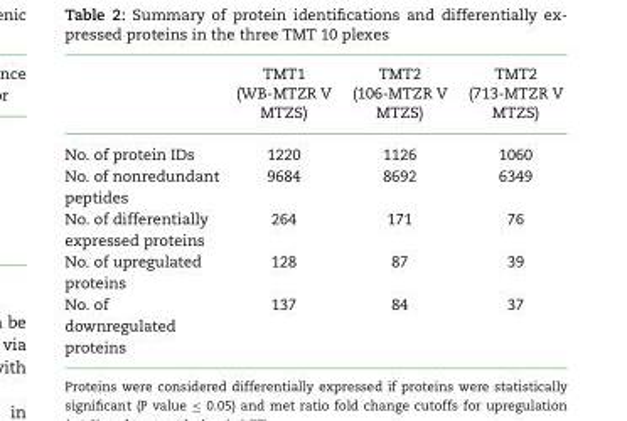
<table><thead><tr><td></td><td>TMT1 (WB-MTZR V MTZS)</td><td>TMT2 (106-MTZR V MTZS)</td><td>TMT2 (713-MTZR V MTZS)</td></tr></thead><tbody><tr><td>No. of protein IDs</td><td>1220</td><td>1126</td><td>1060</td></tr><tr><td>No. of nonredundant peptides</td><td>9684</td><td>8692</td><td>6349</td></tr><tr><td>No. of differentially expressed proteins</td><td>264</td><td>171</td><td>76</td></tr><tr><td>No. of upregulated proteins</td><td>128</td><td>87</td><td>39</td></tr><tr><td>No. of downregulated proteins</td><td>137</td><td>84</td><td>37</td></tr></tbody></table>